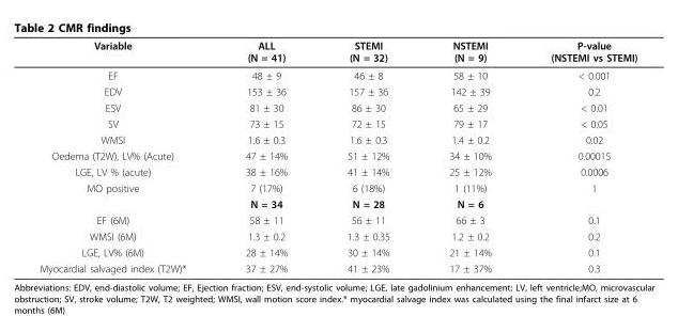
<table><thead><tr><td>Variable</td><td>ALL (N = 41)</td><td>STEMI (N = 32)</td><td>NSTEMI (N = 9)</td><td>P-value (NSTEMI vs STEMI)</td></tr></thead><tbody><tr><td>EF</td><td>48 ± 9</td><td>46 ± 8</td><td>58 ± 10</td><td>&lt; 0.001</td></tr><tr><td>EDV</td><td>153 ± 36</td><td>157 ± 36</td><td>142 ± 39</td><td>0.2</td></tr><tr><td>ESV</td><td>81 ± 30</td><td>86 ± 30</td><td>65 ± 29</td><td>&lt; 0.01</td></tr><tr><td>SV</td><td>73 ± 15</td><td>72 ± 15</td><td>79 ± 17</td><td>&lt; 0.05</td></tr><tr><td>WMSI</td><td>1.6 ± 0.3</td><td>1.6 ± 0.3</td><td>1.4 ± 0.2</td><td>0.02</td></tr><tr><td>Oedema (T2W), LV% (Acute)</td><td>47 ± 14%</td><td>51 ± 12%</td><td>34 ± 10%</td><td>0.00015</td></tr><tr><td>LGE, LV % (acute)</td><td>38 ± 16%</td><td>41 ± 14%</td><td>25 ± 12%</td><td>0.0006</td></tr><tr><td rowspan="2">MO positive</td><td>7 (17%)</td><td>6 (18%)</td><td>1 (11%)</td><td>1</td></tr><tr><td>N = 34</td><td>N = 28</td><td>N = 6</td><td></td></tr><tr><td>EF (6M)</td><td>58 ± 11</td><td>56 ± 11</td><td>66 ± 3</td><td>0.1</td></tr><tr><td>WMSI (6M)</td><td>1.3 ± 0.2</td><td>1.3 ± 0.35</td><td>1.2 ± 0.2</td><td>0.2</td></tr><tr><td>LGE, LV% (6M)</td><td>28 ± 14%</td><td>30 ± 14%</td><td>21 ± 14%</td><td>0.1</td></tr><tr><td>Myocardial salvaged index (T2W)*</td><td>37 ± 27%</td><td>41 ± 23%</td><td>17 ± 37%</td><td>0.3</td></tr></tbody></table>